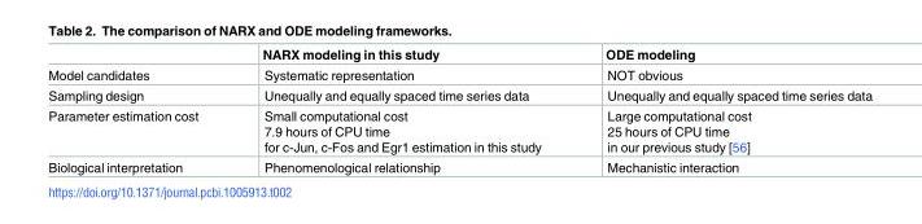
<table><thead><tr><td></td><td>NARX modeling in this study</td><td>ODE modeling</td></tr></thead><tbody><tr><td>Model candidates</td><td>Systematic representation</td><td>NOT obvious</td></tr><tr><td>Sampling design</td><td>Unequally and equally spaced time series data</td><td>Unequally and equally spaced time series data</td></tr><tr><td>Parameter estimation cost</td><td>Small computational cost 7.9 hours of CPU time for c-Jun, c-Fos and Egr1 estimation in this study</td><td>Large computational cost 25 hours of CPU time in our previous study [56]</td></tr><tr><td>Biological interpretation</td><td>Phenomenological relationship</td><td>Mechanistic interaction</td></tr></tbody></table>